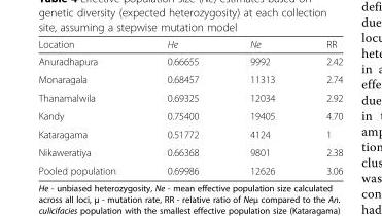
<table><thead><tr><td>Location</td><td>He</td><td>Ne</td><td>RR</td></tr></thead><tbody><tr><td>Anuradhapura</td><td>0.66655</td><td>9992</td><td>2.42</td></tr><tr><td>Monaragala</td><td>0.68457</td><td>11313</td><td>2.74</td></tr><tr><td>Thanamalwila</td><td>0.69325</td><td>12034</td><td>2.92</td></tr><tr><td>Kandy</td><td>0.75400</td><td>19405</td><td>4.70</td></tr><tr><td>Kataragama</td><td>0.51772</td><td>4124</td><td>1</td></tr><tr><td>Nikaweratiya</td><td>0.66368</td><td>9801</td><td>2.38</td></tr><tr><td>Pooled population</td><td>0.69986</td><td>12626</td><td>3.06</td></tr></tbody></table>